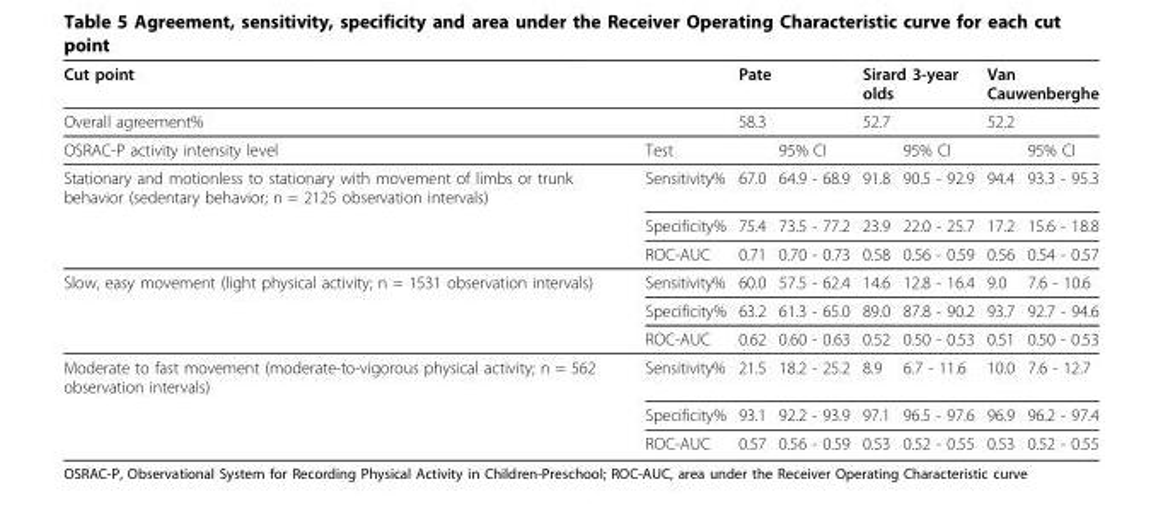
<table><thead><tr><td rowspan="2" colspan="2">Cut point Overall agreement%</td><td rowspan="2" colspan="2">Pate 58.3</td><td rowspan="2" colspan="2">Sirard 3-year olds 52.7</td><td rowspan="2" colspan="2">Van Cauwenberghe 52.2</td></tr><tr></tr><tr><td>OSRAC-P activity intensity level</td><td>Test</td><td></td><td>95% CI</td><td></td><td>95% CI</td><td></td><td>95% CI</td></tr></thead><tbody><tr><td rowspan="3">Stationary and motionless to stationary with movement of limbs or trunk behavior (sedentary behavior; n = 2125 observation intervals)</td><td>Sensitivity%</td><td>67.0</td><td>64.9 - 68.9</td><td>91.8</td><td>90.5 - 92.9</td><td>94.4</td><td>93.3 - 95.3</td></tr><tr><td>Specificity%</td><td>75.4</td><td>73.5 - 77.2</td><td>23.9</td><td>22.0 - 25.7</td><td>17.2</td><td>15.6 - 18.8</td></tr><tr><td>ROC-AUC</td><td>0.71</td><td>0.70 - 0.73</td><td>0.58</td><td>0.56 - 0.59</td><td>0.56</td><td>0.54 - 0.57</td></tr><tr><td rowspan="3">Slow, easy movement (light physical activity; n = 1531 observation intervals)</td><td>Sensitivity%</td><td>60.0</td><td>57.5 - 62.4</td><td>14.6</td><td>12.8 - 16.4</td><td>9.0</td><td>7.6 - 10.6</td></tr><tr><td>Specificity%</td><td>63.2</td><td>61.3 - 65.0</td><td>89.0</td><td>87.8 - 90.2</td><td>93.7</td><td>92.7 - 94.6</td></tr><tr><td>ROC-AUC</td><td>0.62</td><td>0.60 - 0.63</td><td>0.52</td><td>0.50 - 0.53</td><td>0.51</td><td>0.50 - 0.53</td></tr><tr><td rowspan="3">Moderate to fast movement (moderate-to-vigorous physical activity; n = 562 observation intervals)</td><td>Sensitivity%</td><td>21.5</td><td>18.2 - 25.2</td><td>8.9</td><td>6.7 - 11.6</td><td>10.0</td><td>7.6 - 12.7</td></tr><tr><td>Specificity%</td><td>93.1</td><td>92.2 - 93.9</td><td>97.1</td><td>96.5 - 97.6</td><td>96.9</td><td>96.2 - 97.4</td></tr><tr><td>ROC-AUC</td><td>0.57</td><td>0.56 - 0.59</td><td>0.53</td><td>0.52 - 0.55</td><td>0.53</td><td>0.52 - 0.55</td></tr></tbody></table>